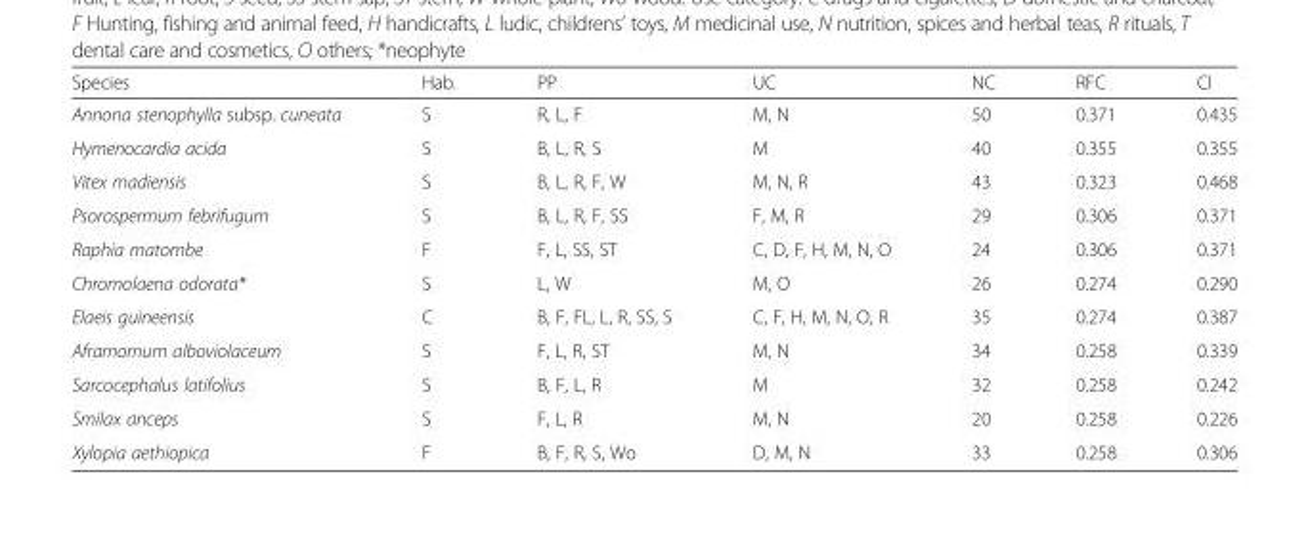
<table><thead><tr><td>Species</td><td>Hab.</td><td>PP</td><td>UC</td><td>NC</td><td>RFC</td><td>CI</td></tr></thead><tbody><tr><td>Annona stenophylla subsp. cuneata</td><td>S</td><td>R, L, F</td><td>M, N</td><td>50</td><td>0.371</td><td>0.435</td></tr><tr><td>Hymenocardia acida</td><td>S</td><td>B, L, R, S</td><td>M</td><td>40</td><td>0.355</td><td>0.355</td></tr><tr><td>Vitex madiensis</td><td>S</td><td>B, L, R, F, W</td><td>M, N, R</td><td>43</td><td>0.323</td><td>0.468</td></tr><tr><td>Psorospermum febrifugum</td><td>S</td><td>B, L, R, F, SS</td><td>F, M, R</td><td>29</td><td>0.306</td><td>0.371</td></tr><tr><td>Raphia matombe</td><td>F</td><td>F, L, SS, ST</td><td>C, D, F, H, M, N, O</td><td>24</td><td>0.306</td><td>0.371</td></tr><tr><td>Chromolaena odorata*</td><td>S</td><td>L, W</td><td>M, O</td><td>26</td><td>0.274</td><td>0.290</td></tr><tr><td>Elaeis guineensis</td><td>C</td><td>B, F, FL, L, R, SS, S</td><td>C, F, H, M, N, O, R</td><td>35</td><td>0.274</td><td>0.387</td></tr><tr><td>Aframomum alboviolaceum</td><td>S</td><td>F, L, R, ST</td><td>M, N</td><td>34</td><td>0.258</td><td>0.339</td></tr><tr><td>Sarcocephalus latifolius</td><td>S</td><td>B, F, L, R</td><td>M</td><td>32</td><td>0.258</td><td>0.242</td></tr><tr><td>Smilax anceps</td><td>S</td><td>F, L, R</td><td>M, N</td><td>20</td><td>0.258</td><td>0.226</td></tr><tr><td>Xylopia aethiopica</td><td>F</td><td>B, F, R, S, Wo</td><td>D, M, N</td><td>33</td><td>0.258</td><td>0.306</td></tr></tbody></table>